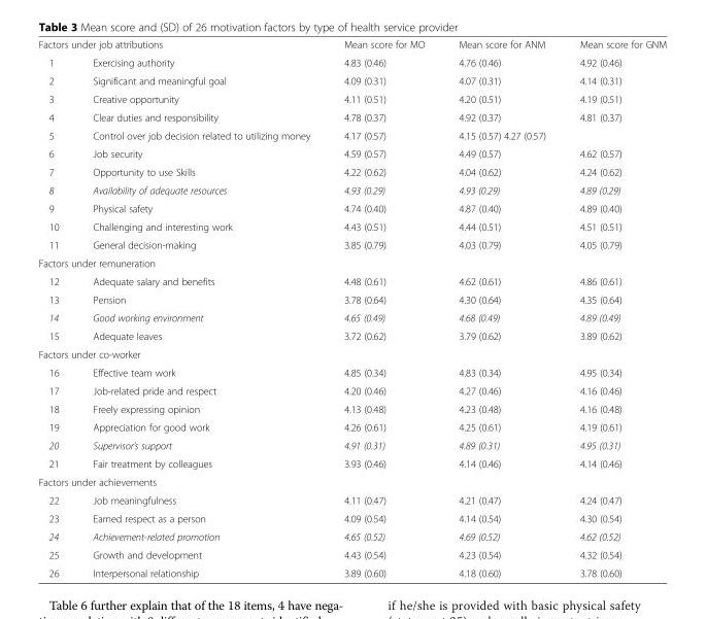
<table><tbody><tr><td colspan="2">Factors under job attributions</td><td>Mean score for MO</td><td>Mean score for ANM</td><td>Mean score for GNM</td></tr><tr><td>1</td><td>Exercising authority</td><td>4.83 (0.46)</td><td>4.76 (0.46)</td><td>4.92 (0.46)</td></tr><tr><td>2</td><td>Significant and meaningful goal</td><td>4.09 (0.31)</td><td>4.07 (0.31)</td><td>4.14 (0.31)</td></tr><tr><td>3</td><td>Creative opportunity</td><td>4.11 (0.51)</td><td>4.20 (0.51)</td><td>4.19 (0.51)</td></tr><tr><td>4</td><td>Clear duties and responsibility</td><td>4.78 (0.37)</td><td>4.92 (0.37)</td><td>4.81 (0.37)</td></tr><tr><td>5</td><td>Control over job decision related to utilizing money</td><td>4.17 (0.57)</td><td>4.15 (0.57) 4.27 (0.57)</td><td></td></tr><tr><td>6</td><td>Job security</td><td>4.59 (0.57)</td><td>4.49 (0.57)</td><td>4.62 (0.57)</td></tr><tr><td>7</td><td>Opportunity to use Skills</td><td>4.22 (0.62)</td><td>4.04 (0.62)</td><td>4.24 (0.62)</td></tr><tr><td>8</td><td>Availability of adequate resources</td><td>4.93 (0.29)</td><td>4.93 (0.29)</td><td>4.89 (0.29)</td></tr><tr><td>9</td><td>Physical safety</td><td>4.74 (0.40)</td><td>4.87 (0.40)</td><td>4.89 (0.40)</td></tr><tr><td>10</td><td>Challenging and interesting work</td><td>4.43 (0.51)</td><td>4.44 (0.51)</td><td>4.51 (0.51)</td></tr><tr><td>11</td><td>General decision-making</td><td>3.85 (0.79)</td><td>4.03 (0.79)</td><td>4.05 (0.79)</td></tr><tr><td colspan="5">Factors under remuneration</td></tr><tr><td>12</td><td>Adequate salary and benefits</td><td>4.48 (0.61)</td><td>4.62 (0.61)</td><td>4.86 (0.61)</td></tr><tr><td>13</td><td>Pension</td><td>3.78 (0.64)</td><td>4.30 (0.64)</td><td>4.35 (0.64)</td></tr><tr><td>14</td><td>Good working environment</td><td>4.65 (0.49)</td><td>4.68 (0.49)</td><td>4.89 (0.49)</td></tr><tr><td>15</td><td>Adequate leaves</td><td>3.72 (0.62)</td><td>3.79 (0.62)</td><td>3.89 (0.62)</td></tr><tr><td colspan="5">Factors under co-worker</td></tr><tr><td>16</td><td>Effective team work</td><td>4.85 (0.34)</td><td>4.83 (0.34)</td><td>4.95 (0.34)</td></tr><tr><td>17</td><td>Job-related pride and respect</td><td>4.20 (0.46)</td><td>4.27 (0.46)</td><td>4.16 (0.46)</td></tr><tr><td>18</td><td>Freely expressing opinion</td><td>4.13 (0.48)</td><td>4.23 (0.48)</td><td>4.16 (0.48)</td></tr><tr><td>19</td><td>Appreciation for good work</td><td>4.26 (0.61)</td><td>4.25 (0.61)</td><td>4.19 (0.61)</td></tr><tr><td>20</td><td>Supervisor’s support</td><td>4.91 (0.31)</td><td>4.89 (0.31)</td><td>4.95 (0.31)</td></tr><tr><td>21</td><td>Fair treatment by colleagues</td><td>3.93 (0.46)</td><td>4.14 (0.46)</td><td>4.14 (0.46)</td></tr><tr><td colspan="5">Factors under achievements</td></tr><tr><td>22</td><td>Job meaningfulness</td><td>4.11 (0.47)</td><td>4.21 (0.47)</td><td>4.24 (0.47)</td></tr><tr><td>23</td><td>Earned respect as a person</td><td>4.09 (0.54)</td><td>4.14 (0.54)</td><td>4.30 (0.54)</td></tr><tr><td>24</td><td>Achievement-related promotion</td><td>4.65 (0.52)</td><td>4.69 (0.52)</td><td>4.62 (0.52)</td></tr><tr><td>25</td><td>Growth and development</td><td>4.43 (0.54)</td><td>4.23 (0.54)</td><td>4.32 (0.54)</td></tr><tr><td>26</td><td>Interpersonal relationship</td><td>3.89 (0.60)</td><td>4.18 (0.60)</td><td>3.78 (0.60)</td></tr></tbody></table>